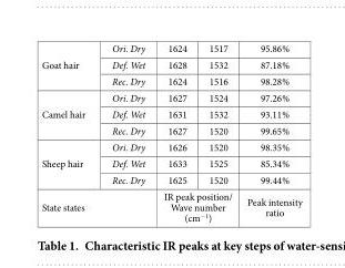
<table><tbody><tr><td rowspan="3">Goat hair</td><td>Ori. Dry</td><td>1624</td><td>1517</td><td>95.86%</td></tr><tr><td>Def. Wet</td><td>1628</td><td>1532</td><td>87.18%</td></tr><tr><td>Rec. Dry</td><td>1624</td><td>1516</td><td>98.28%</td></tr><tr><td rowspan="3">Camel hair</td><td>Ori. Dry</td><td>1627</td><td>1524</td><td>97.26%</td></tr><tr><td>Def. Wet</td><td>1631</td><td>1532</td><td>93.11%</td></tr><tr><td>Rec. Dry</td><td>1627</td><td>1520</td><td>99.65%</td></tr><tr><td rowspan="3">Sheep hair</td><td>Ori. Dry</td><td>1626</td><td>1520</td><td>98.35%</td></tr><tr><td>Def. Wet</td><td>1633</td><td>1525</td><td>85.34%</td></tr><tr><td>Rec. Dry</td><td>1625</td><td>1520</td><td>99.44%</td></tr><tr><td colspan="2">State states</td><td colspan="2">IR peak position/ Wave number (cm<sup>−1</sup>)</td><td>Peak intensity ratio</td></tr></tbody></table>